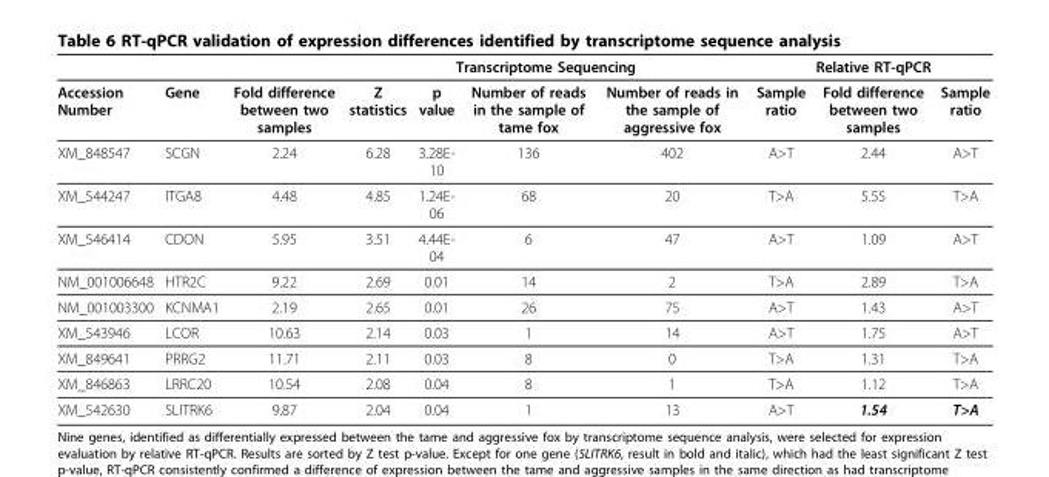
<table><thead><tr><td rowspan="2">Accession Number</td><td rowspan="2">Gene</td><td rowspan="2">Fold difference between two samples</td><td colspan="4">Transcriptome Sequencing</td><td colspan="3">Relative RT-qPCR</td></tr><tr><td>Z statistics</td><td>p value</td><td>Number of reads in the sample of tame fox</td><td>Number of reads in the sample of aggressive fox</td><td>Sample ratio</td><td>Fold difference between two samples</td><td>Sample ratio</td></tr></thead><tbody><tr><td>XM_848547</td><td>SCGN</td><td>2.24</td><td>6.28</td><td>3.28E- 10</td><td>136</td><td>402</td><td>A&gt;T</td><td>2.44</td><td>A&gt;T</td></tr><tr><td>XM_544247</td><td>ITGA8</td><td>4.48</td><td>4.85</td><td>1.24E- 06</td><td>68</td><td>20</td><td>T&gt;A</td><td>5.55</td><td>T&gt;A</td></tr><tr><td>XM_546414</td><td>CDON</td><td>5.95</td><td>3.51</td><td>4.44E- 04</td><td>6</td><td>47</td><td>A&gt;T</td><td>1.09</td><td>A&gt;T</td></tr><tr><td>NM_001006648</td><td>HTR2C</td><td>9.22</td><td>2.69</td><td>0.01</td><td>14</td><td>2</td><td>T&gt;A</td><td>2.89</td><td>T&gt;A</td></tr><tr><td>NM_001003300</td><td>KCNMA1</td><td>2.19</td><td>2.65</td><td>0.01</td><td>26</td><td>75</td><td>A&gt;T</td><td>1.43</td><td>A&gt;T</td></tr><tr><td>XM_543946</td><td>LCOR</td><td>10.63</td><td>2.14</td><td>0.03</td><td>1</td><td>14</td><td>A&gt;T</td><td>1.75</td><td>A&gt;T</td></tr><tr><td>XM_849641</td><td>PRRG2</td><td>11.71</td><td>2.11</td><td>0.03</td><td>8</td><td>0</td><td>T&gt;A</td><td>1.31</td><td>T&gt;A</td></tr><tr><td>XM_846863</td><td>LRRC20</td><td>10.54</td><td>2.08</td><td>0.04</td><td>8</td><td>1</td><td>T&gt;A</td><td>1.12</td><td>T&gt;A</td></tr><tr><td>XM_542630</td><td>SLITRK6</td><td>9.87</td><td>2.04</td><td>0.04</td><td>1</td><td>13</td><td>A&gt;T</td><td>1.54</td><td>T&gt;A</td></tr></tbody></table>